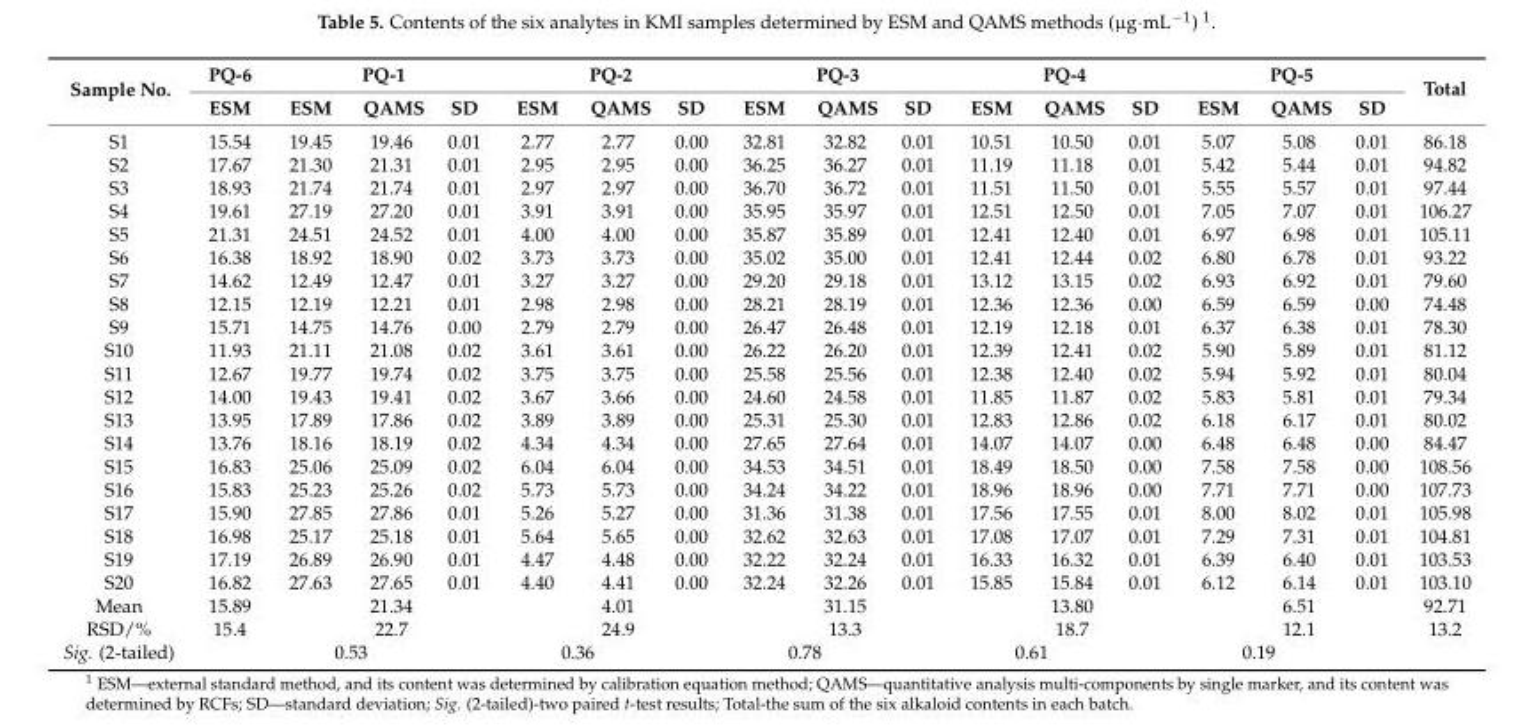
<table><thead><tr><td rowspan="2">Sample No.</td><td rowspan="2">PQ-6 ESM</td><td colspan="3">PQ-1</td><td colspan="3">PQ-2</td><td colspan="3">PQ-3</td><td colspan="3">PQ-4</td><td colspan="3">PQ-5</td><td rowspan="2">Total</td></tr><tr><td>ESM</td><td>QAMS</td><td>SD</td><td>ESM</td><td>QAMS</td><td>SD</td><td>ESM</td><td>QAMS</td><td>SD</td><td>ESM</td><td>QAMS</td><td>SD</td><td>ESM</td><td>QAMS</td><td>SD</td></tr></thead><tbody><tr><td>S1</td><td>15.54</td><td>19.45</td><td>19.46</td><td>0.01</td><td>2.77</td><td>2.77</td><td>0.00</td><td>32.81</td><td>32.82</td><td>0.01</td><td>10.51</td><td>10.50</td><td>0.01</td><td>5.07</td><td>5.08</td><td>0.01</td><td>86.18</td></tr><tr><td>S2</td><td>17.67</td><td>21.30</td><td>21.31</td><td>0.01</td><td>2.95</td><td>2.95</td><td>0.00</td><td>36.25</td><td>36.27</td><td>0.01</td><td>11.19</td><td>11.18</td><td>0.01</td><td>5.42</td><td>5.44</td><td>0.01</td><td>94.82</td></tr><tr><td>S3</td><td>18.93</td><td>21.74</td><td>21.74</td><td>0.01</td><td>2.97</td><td>2.97</td><td>0.00</td><td>36.70</td><td>36.72</td><td>0.01</td><td>11.51</td><td>11.50</td><td>0.01</td><td>5.55</td><td>5.57</td><td>0.01</td><td>97.44</td></tr><tr><td>S4</td><td>19.61</td><td>27.19</td><td>27.20</td><td>0.01</td><td>3.91</td><td>3.91</td><td>0.00</td><td>35.95</td><td>35.97</td><td>0.01</td><td>12.51</td><td>12.50</td><td>0.01</td><td>7.05</td><td>7.07</td><td>0.01</td><td>106.27</td></tr><tr><td>S5</td><td>21.31</td><td>24.51</td><td>24.52</td><td>0.01</td><td>4.00</td><td>4.00</td><td>0.00</td><td>35.87</td><td>35.89</td><td>0.01</td><td>12.41</td><td>12.40</td><td>0.01</td><td>6.97</td><td>6.98</td><td>0.01</td><td>105.11</td></tr><tr><td>S6</td><td>16.38</td><td>18.92</td><td>18.90</td><td>0.02</td><td>3.73</td><td>3.73</td><td>0.00</td><td>35.02</td><td>35.00</td><td>0.01</td><td>12.41</td><td>12.44</td><td>0.02</td><td>6.80</td><td>6.78</td><td>0.01</td><td>93.22</td></tr><tr><td>S7</td><td>14.62</td><td>12.49</td><td>12.47</td><td>0.01</td><td>3.27</td><td>3.27</td><td>0.00</td><td>29.20</td><td>29.18</td><td>0.01</td><td>13.12</td><td>13.15</td><td>0.02</td><td>6.93</td><td>6.92</td><td>0.01</td><td>79.60</td></tr><tr><td>S8</td><td>12.15</td><td>12.19</td><td>12.21</td><td>0.01</td><td>2.98</td><td>2.98</td><td>0.00</td><td>28.21</td><td>28.19</td><td>0.01</td><td>12.36</td><td>12.36</td><td>0.00</td><td>6.59</td><td>6.59</td><td>0.00</td><td>74.48</td></tr><tr><td>S9</td><td>15.71</td><td>14.75</td><td>14.76</td><td>0.00</td><td>2.79</td><td>2.79</td><td>0.00</td><td>26.47</td><td>26.48</td><td>0.01</td><td>12.19</td><td>12.18</td><td>0.01</td><td>6.37</td><td>6.38</td><td>0.01</td><td>78.30</td></tr><tr><td>S10</td><td>11.93</td><td>21.11</td><td>21.08</td><td>0.02</td><td>3.61</td><td>3.61</td><td>0.00</td><td>26.22</td><td>26.20</td><td>0.01</td><td>12.39</td><td>12.41</td><td>0.02</td><td>5.90</td><td>5.89</td><td>0.01</td><td>81.12</td></tr><tr><td>S11</td><td>12.67</td><td>19.77</td><td>19.74</td><td>0.02</td><td>3.75</td><td>3.75</td><td>0.00</td><td>25.58</td><td>25.56</td><td>0.01</td><td>12.38</td><td>12.40</td><td>0.02</td><td>5.94</td><td>5.92</td><td>0.01</td><td>80.04</td></tr><tr><td>S12</td><td>14.00</td><td>19.43</td><td>19.41</td><td>0.02</td><td>3.67</td><td>3.66</td><td>0.00</td><td>24.60</td><td>24.58</td><td>0.01</td><td>11.85</td><td>11.87</td><td>0.02</td><td>5.83</td><td>5.81</td><td>0.01</td><td>79.34</td></tr><tr><td>S13</td><td>13.95</td><td>17.89</td><td>17.86</td><td>0.02</td><td>3.89</td><td>3.89</td><td>0.00</td><td>25.31</td><td>25.30</td><td>0.01</td><td>12.83</td><td>12.86</td><td>0.02</td><td>6.18</td><td>6.17</td><td>0.01</td><td>80.02</td></tr><tr><td>S14</td><td>13.76</td><td>18.16</td><td>18.19</td><td>0.02</td><td>4.34</td><td>4.34</td><td>0.00</td><td>27.65</td><td>27.64</td><td>0.01</td><td>14.07</td><td>14.07</td><td>0.00</td><td>6.48</td><td>6.48</td><td>0.00</td><td>84.47</td></tr><tr><td>S15</td><td>16.83</td><td>25.06</td><td>25.09</td><td>0.02</td><td>6.04</td><td>6.04</td><td>0.00</td><td>34.53</td><td>34.51</td><td>0.01</td><td>18.49</td><td>18.50</td><td>0.00</td><td>7.58</td><td>7.58</td><td>0.00</td><td>108.56</td></tr><tr><td>S16</td><td>15.83</td><td>25.23</td><td>25.26</td><td>0.02</td><td>5.73</td><td>5.73</td><td>0.00</td><td>34.24</td><td>34.22</td><td>0.01</td><td>18.96</td><td>18.96</td><td>0.00</td><td>7.71</td><td>7.71</td><td>0.00</td><td>107.73</td></tr><tr><td>S17</td><td>15.90</td><td>27.85</td><td>27.86</td><td>0.01</td><td>5.26</td><td>5.27</td><td>0.00</td><td>31.36</td><td>31.38</td><td>0.01</td><td>17.56</td><td>17.55</td><td>0.01</td><td>8.00</td><td>8.02</td><td>0.01</td><td>105.98</td></tr><tr><td>S18</td><td>16.98</td><td>25.17</td><td>25.18</td><td>0.01</td><td>5.64</td><td>5.65</td><td>0.00</td><td>32.62</td><td>32.63</td><td>0.01</td><td>17.08</td><td>17.07</td><td>0.01</td><td>7.29</td><td>7.31</td><td>0.01</td><td>104.81</td></tr><tr><td>S19</td><td>17.19</td><td>26.89</td><td>26.90</td><td>0.01</td><td>4.47</td><td>4.48</td><td>0.00</td><td>32.22</td><td>32.24</td><td>0.01</td><td>16.33</td><td>16.32</td><td>0.01</td><td>6.39</td><td>6.40</td><td>0.01</td><td>103.53</td></tr><tr><td>S20</td><td>16.82</td><td>27.63</td><td>27.65</td><td>0.01</td><td>4.40</td><td>4.41</td><td>0.00</td><td>32.24</td><td>32.26</td><td>0.01</td><td>15.85</td><td>15.84</td><td>0.01</td><td>6.12</td><td>6.14</td><td>0.01</td><td>103.10</td></tr><tr><td>Mean</td><td>15.89</td><td></td><td>21.34</td><td></td><td></td><td>4.01</td><td></td><td></td><td>31.15</td><td></td><td></td><td>13.80</td><td></td><td></td><td>6.51</td><td></td><td>92.71</td></tr><tr><td>RSD/%</td><td>15.4</td><td></td><td>22.7</td><td></td><td></td><td>24.9</td><td></td><td></td><td>13.3</td><td></td><td></td><td>18.7</td><td></td><td></td><td>12.1</td><td></td><td>13.2</td></tr><tr><td>Sig. (2-tailed)</td><td></td><td colspan="2">0.53</td><td></td><td colspan="2">0.36</td><td></td><td colspan="2">0.78</td><td></td><td colspan="2">0.61</td><td></td><td colspan="2">0.19</td><td></td><td></td></tr></tbody></table>